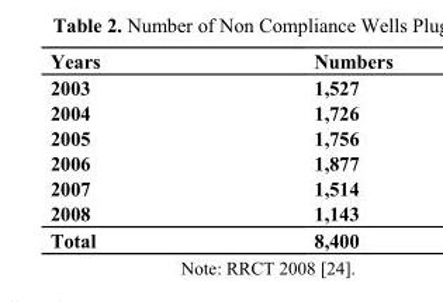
<table><thead><tr><td>Years</td><td>Numbers</td></tr></thead><tbody><tr><td>2003</td><td>1,527</td></tr><tr><td>2004</td><td>1,726</td></tr><tr><td>2005</td><td>1,756</td></tr><tr><td>2006</td><td>1,877</td></tr><tr><td>2007</td><td>1,514</td></tr><tr><td>2008</td><td>1,143</td></tr><tr><td>Total</td><td>8,400</td></tr></tbody></table>